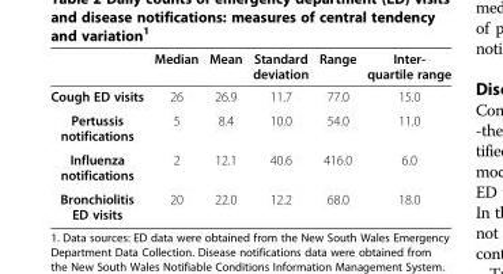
<table><thead><tr><td></td><td>Median</td><td>Mean</td><td>Standard deviation</td><td>Range</td><td>Inter- quartile range</td></tr></thead><tbody><tr><td>Cough ED visits</td><td>26</td><td>26.9</td><td>11.7</td><td>77.0</td><td>15.0</td></tr><tr><td>Pertussis notifications</td><td>5</td><td>8.4</td><td>10.0</td><td>54.0</td><td>11.0</td></tr><tr><td>Influenza notifications</td><td>2</td><td>12.1</td><td>40.6</td><td>416.0</td><td>6.0</td></tr><tr><td>Bronchiolitis ED visits</td><td>20</td><td>22.0</td><td>12.2</td><td>68.0</td><td>18.0</td></tr></tbody></table>